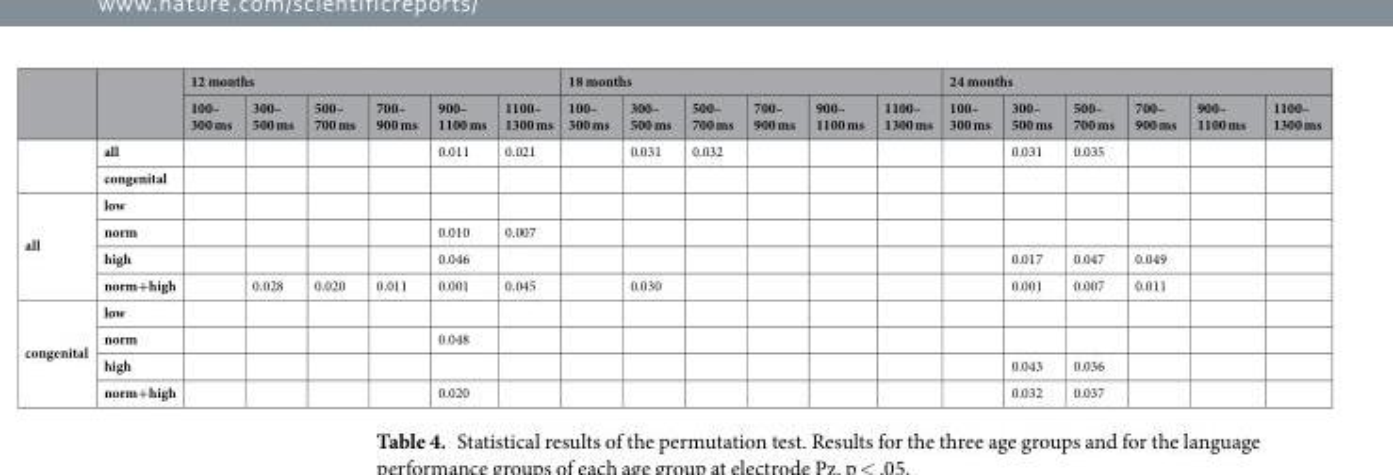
<table><thead><tr><td rowspan="2"></td><td rowspan="2"></td><td colspan="6">12 months</td><td colspan="6">18 months</td><td colspan="6">24 months</td></tr><tr><td>100– 300 ms</td><td>300– 500 ms</td><td>500– 700 ms</td><td>700– 900 ms</td><td>900– 1100 ms</td><td>1100– 1300 ms</td><td>100– 300 ms</td><td>300– 500 ms</td><td>500– 700 ms</td><td>700– 900 ms</td><td>900– 1100 ms</td><td>1100– 1300 ms</td><td>100– 300 ms</td><td>300– 500 ms</td><td>500– 700 ms</td><td>700– 900 ms</td><td>900– 1100 ms</td><td>1100– 1300 ms</td></tr></thead><tbody><tr><td rowspan="2"></td><td>all</td><td></td><td></td><td></td><td></td><td>0.011</td><td>0.021</td><td></td><td>0.031</td><td>0.032</td><td></td><td></td><td></td><td></td><td>0.031</td><td>0.035</td><td></td><td></td><td></td></tr><tr><td>congenital</td><td></td><td></td><td></td><td></td><td></td><td></td><td></td><td></td><td></td><td></td><td></td><td></td><td></td><td></td><td></td><td></td><td></td><td></td></tr><tr><td rowspan="4">all</td><td>low</td><td></td><td></td><td></td><td></td><td></td><td></td><td></td><td></td><td></td><td></td><td></td><td></td><td></td><td></td><td></td><td></td><td></td><td></td></tr><tr><td>norm</td><td></td><td></td><td></td><td></td><td>0.010</td><td>0.007</td><td></td><td></td><td></td><td></td><td></td><td></td><td></td><td></td><td></td><td></td><td></td><td></td></tr><tr><td>high</td><td></td><td></td><td></td><td></td><td>0.046</td><td></td><td></td><td></td><td></td><td></td><td></td><td></td><td></td><td>0.017</td><td>0.047</td><td>0.049</td><td></td><td></td></tr><tr><td>norm+high</td><td></td><td>0.028</td><td>0.020</td><td>0.011</td><td>0.001</td><td>0.045</td><td></td><td>0.030</td><td></td><td></td><td></td><td></td><td></td><td>0.001</td><td>0.007</td><td>0.011</td><td></td><td></td></tr><tr><td rowspan="4">congenital</td><td>low</td><td></td><td></td><td></td><td></td><td></td><td></td><td></td><td></td><td></td><td></td><td></td><td></td><td></td><td></td><td></td><td></td><td></td><td></td></tr><tr><td>norm</td><td></td><td></td><td></td><td></td><td>0.048</td><td></td><td></td><td></td><td></td><td></td><td></td><td></td><td></td><td></td><td></td><td></td><td></td><td></td></tr><tr><td>high</td><td></td><td></td><td></td><td></td><td></td><td></td><td></td><td></td><td></td><td></td><td></td><td></td><td></td><td>0.043</td><td>0.036</td><td></td><td></td><td></td></tr><tr><td>norm+high</td><td></td><td></td><td></td><td></td><td>0.020</td><td></td><td></td><td></td><td></td><td></td><td></td><td></td><td></td><td>0.032</td><td>0.037</td><td></td><td></td><td></td></tr></tbody></table>